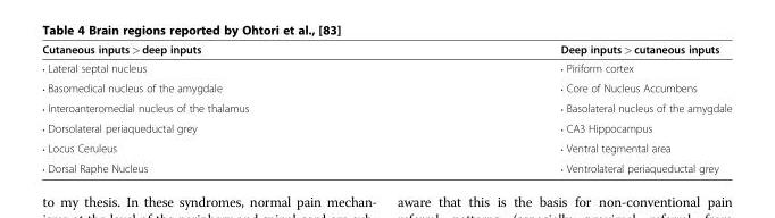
<table><thead><tr><td>Cutaneous inputs &gt; deep inputs</td><td>Deep inputs &gt; cutaneous inputs</td></tr></thead><tbody><tr><td>• Lateral septal nucleus</td><td>• Piriform cortex</td></tr><tr><td>• Basomedical nucleus of the amygdale</td><td>• Core of Nucleus Accumbens</td></tr><tr><td>• Interoanteromedial nucleus of the thalamus</td><td>• Basolateral nucleus of the amygdale</td></tr><tr><td>• Dorsolateral periaqueductal grey</td><td>• CA3 Hippocampus</td></tr><tr><td>• Locus Ceruleus</td><td>• Ventral tegmental area</td></tr><tr><td>• Dorsal Raphe Nucleus</td><td>• Ventrolateral periaqueductal grey</td></tr></tbody></table>